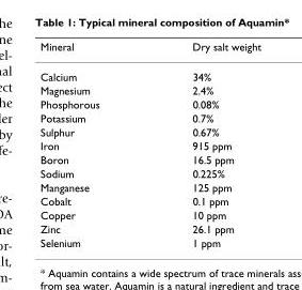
<table><thead><tr><td>Mineral</td><td>Dry salt weight</td></tr></thead><tbody><tr><td>Calcium</td><td>34%</td></tr><tr><td>Magnesium</td><td>2.4%</td></tr><tr><td>Phosphorous</td><td>0.08%</td></tr><tr><td>Potassium</td><td>0.7%</td></tr><tr><td>Sulphur</td><td>0.67%</td></tr><tr><td>Iron</td><td>915 ppm</td></tr><tr><td>Boron</td><td>16.5 ppm</td></tr><tr><td>Sodium</td><td>0.225%</td></tr><tr><td>Manganese</td><td>125 ppm</td></tr><tr><td>Cobalt</td><td>0.1 ppm</td></tr><tr><td>Copper</td><td>10 ppm</td></tr><tr><td>Zinc</td><td>26.1 ppm</td></tr><tr><td>Selenium</td><td>1 ppm</td></tr></tbody></table>